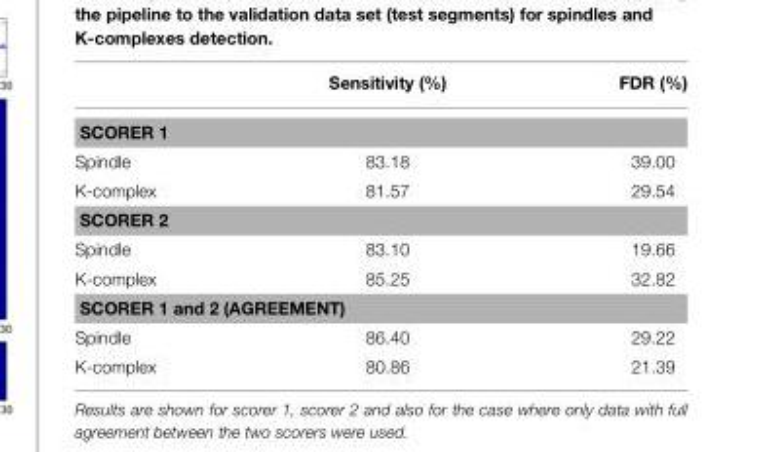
<table><thead><tr><td></td><td>Sensitivity (%)</td><td>FDR (%)</td></tr></thead><tbody><tr><td colspan="3">SCORER 1</td></tr><tr><td>Spindle</td><td>83.18</td><td>39.00</td></tr><tr><td>K-complex</td><td>81.57</td><td>29.54</td></tr><tr><td colspan="3">SCORER 2</td></tr><tr><td>Spindle</td><td>83.10</td><td>19.66</td></tr><tr><td>K-complex</td><td>85.25</td><td>32.82</td></tr><tr><td colspan="3">SCORER 1 and 2 (AGREEMENT)</td></tr><tr><td>Spindle</td><td>86.40</td><td>29.22</td></tr><tr><td>K-complex</td><td>80.86</td><td>21.39</td></tr></tbody></table>